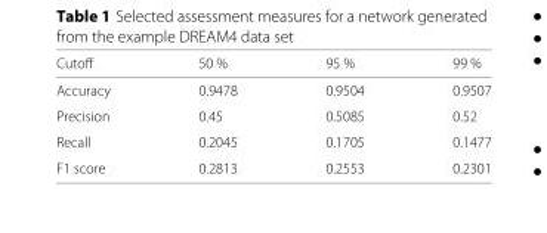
<table><thead><tr><td>Cutoff</td><td>50 %</td><td>95 %</td><td>99 %</td></tr></thead><tbody><tr><td>Accuracy</td><td>0.9478</td><td>0.9504</td><td>0.9507</td></tr><tr><td>Precision</td><td>0.45</td><td>0.5085</td><td>0.52</td></tr><tr><td>Recall</td><td>0.2045</td><td>0.1705</td><td>0.1477</td></tr><tr><td>F1 score</td><td>0.2813</td><td>0.2553</td><td>0.2301</td></tr></tbody></table>